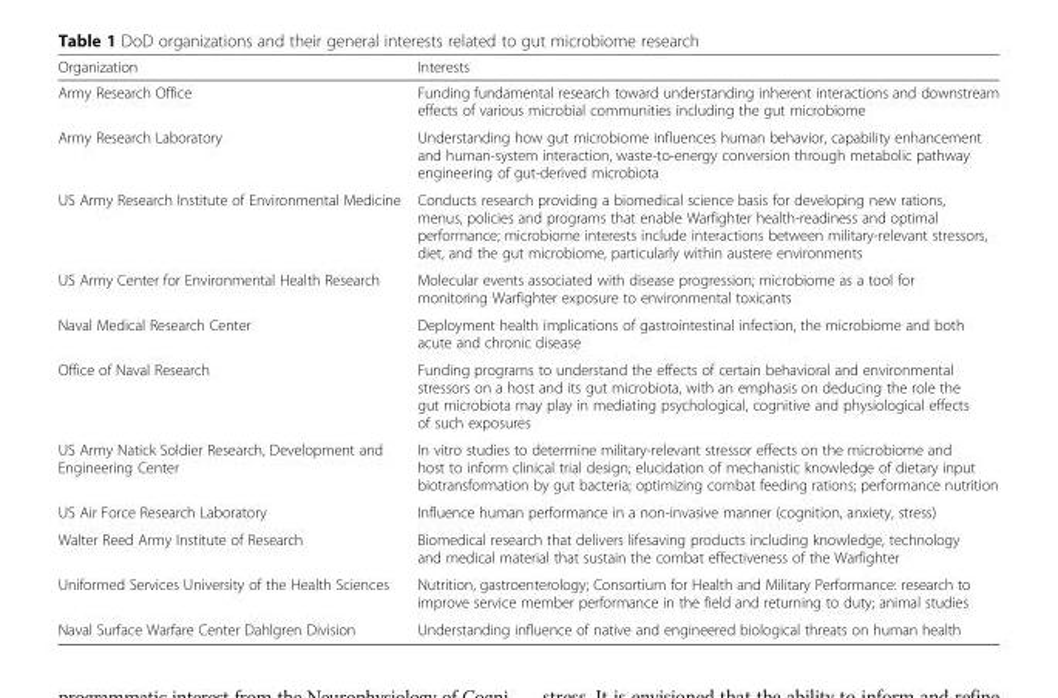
<table><thead><tr><td>Organization</td><td>Interests</td></tr></thead><tbody><tr><td>Army Research Office</td><td>Funding fundamental research toward understanding inherent interactions and downstream effects of various microbial communities including the gut microbiome</td></tr><tr><td>Army Research Laboratory</td><td>Understanding how gut microbiome influences human behavior, capability enhancement and human-system interaction, waste-to-energy conversion through metabolic pathway engineering of gut-derived microbiota</td></tr><tr><td>US Army Research Institute of Environmental Medicine</td><td>Conducts research providing a biomedical science basis for developing new rations, menus, policies and programs that enable Warfighter health-readiness and optimal performance; microbiome interests include interactions between military-relevant stressors, diet, and the gut microbiome, particularly within austere environments</td></tr><tr><td>US Army Center for Environmental Health Research</td><td>Molecular events associated with disease progression; microbiome as a tool for monitoring Warfighter exposure to environmental toxicants</td></tr><tr><td>Naval Medical Research Center</td><td>Deployment health implications of gastrointestinal infection, the microbiome and both acute and chronic disease</td></tr><tr><td>Office of Naval Research</td><td>Funding programs to understand the effects of certain behavioral and environmental stressors on a host and its gut microbiota, with an emphasis on deducing the role the gut microbiota may play in mediating psychological, cognitive and physiological effects of such exposures</td></tr><tr><td>US Army Natick Soldier Research, Development and Engineering Center</td><td>In vitro studies to determine military-relevant stressor effects on the microbiome and host to inform clinical trial design; elucidation of mechanistic knowledge of dietary input biotransformation by gut bacteria; optimizing combat feeding rations; performance nutrition</td></tr><tr><td>US Air Force Research Laboratory</td><td>Influence human performance in a non-invasive manner (cognition, anxiety, stress)</td></tr><tr><td>Walter Reed Army Institute of Research</td><td>Biomedical research that delivers lifesaving products including knowledge, technology and medical material that sustain the combat effectiveness of the Warfighter</td></tr><tr><td>Uniformed Services University of the Health Sciences</td><td>Nutrition, gastroenterology; Consortium for Health and Military Performance: research to improve service member performance in the field and returning to duty; animal studies</td></tr><tr><td>Naval Surface Warfare Center Dahlgren Division</td><td>Understanding influence of native and engineered biological threats on human health</td></tr></tbody></table>